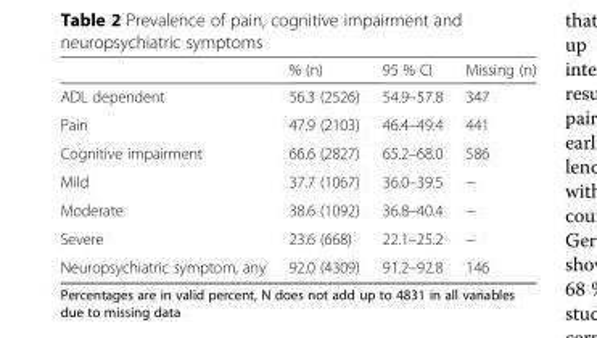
<table><thead><tr><td></td><td>% (n)</td><td>95 % CI</td><td>Missing (n)</td></tr></thead><tbody><tr><td>ADL dependent</td><td>56.3 (2526)</td><td>54.9–57.8</td><td>347</td></tr><tr><td>Pain</td><td>47.9 (2103)</td><td>46.4–49.4</td><td>441</td></tr><tr><td>Cognitive impairment</td><td>66.6 (2827)</td><td>65.2–68.0</td><td>586</td></tr><tr><td>Mild</td><td>37.7 (1067)</td><td>36.0–39.5</td><td>−</td></tr><tr><td>Moderate</td><td>38.6 (1092)</td><td>36.8–40.4</td><td>−</td></tr><tr><td>Severe</td><td>23.6 (668)</td><td>22.1–25.2</td><td>−</td></tr><tr><td>Neuropsychiatric symptom, any</td><td>92.0 (4309)</td><td>91.2–92.8</td><td>146</td></tr></tbody></table>